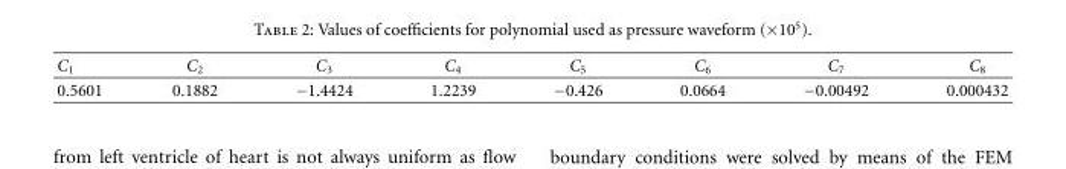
<table><thead><tr><td>C<sub>1</sub></td><td>C<sub>2</sub></td><td>C<sub>3</sub></td><td>C<sub>4</sub></td><td>C<sub>5</sub></td><td>C<sub>6</sub></td><td>C<sub>7</sub></td><td>C<sub>8</sub></td></tr></thead><tbody><tr><td>0.5601</td><td>0.1882</td><td>−1.4424</td><td>1.2239</td><td>−0.426</td><td>0.0664</td><td>−0.00492</td><td>0.000432</td></tr></tbody></table>